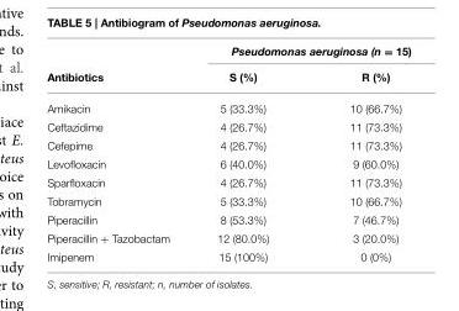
<table><thead><tr><td rowspan="2">Antibiotics</td><td colspan="2">Pseudomonas aeruginosa (n = 15)</td></tr><tr><td>S (%)</td><td>R (%)</td></tr></thead><tbody><tr><td>Amikacin</td><td>5 (33.3%)</td><td>10 (66.7%)</td></tr><tr><td>Ceftazidime</td><td>4 (26.7%)</td><td>11 (73.3%)</td></tr><tr><td>Cefepime</td><td>4 (26.7%)</td><td>11 (73.3%)</td></tr><tr><td>Levofloxacin</td><td>6 (40.0%)</td><td>9 (60.0%)</td></tr><tr><td>Sparfloxacin</td><td>4 (26.7%)</td><td>11 (73.3%)</td></tr><tr><td>Tobramycin</td><td>5 (33.3%)</td><td>10 (66.7%)</td></tr><tr><td>Piperacillin</td><td>8 (53.3%)</td><td>7 (46.7%)</td></tr><tr><td>Piperacillin + Tazobactam</td><td>12 (80.0%)</td><td>3 (20.0%)</td></tr><tr><td>Imipenem</td><td>15 (100%)</td><td>0 (0%)</td></tr></tbody></table>